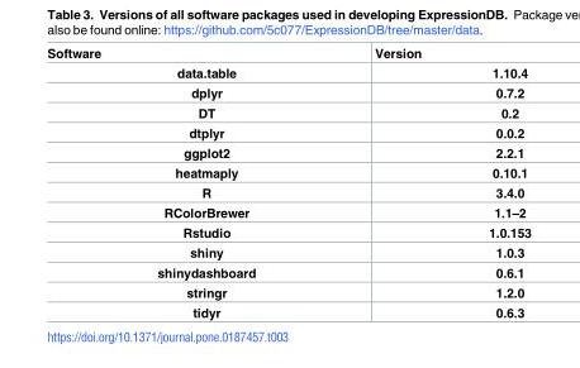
<table><thead><tr><td>Software</td><td>Version</td></tr></thead><tbody><tr><td>data.table</td><td>1.10.4</td></tr><tr><td>dplyr</td><td>0.7.2</td></tr><tr><td>DT</td><td>0.2</td></tr><tr><td>dtplyr</td><td>0.0.2</td></tr><tr><td>ggplot2</td><td>2.2.1</td></tr><tr><td>heatmaply</td><td>0.10.1</td></tr><tr><td>R</td><td>3.4.0</td></tr><tr><td>RColorBrewer</td><td>1.1–2</td></tr><tr><td>Rstudio</td><td>1.0.153</td></tr><tr><td>shiny</td><td>1.0.3</td></tr><tr><td>shinydashboard</td><td>0.6.1</td></tr><tr><td>stringr</td><td>1.2.0</td></tr><tr><td>tidyr</td><td>0.6.3</td></tr></tbody></table>